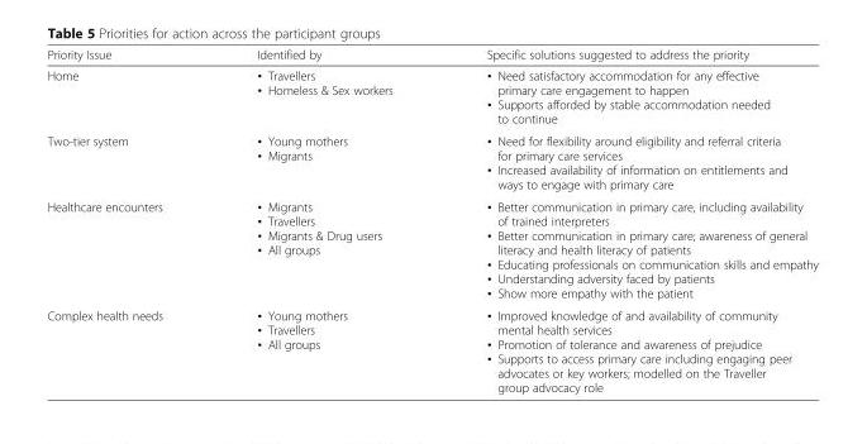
<table><thead><tr><td>Priority Issue</td><td>Identified by</td><td>Specific solutions suggested to address the priority</td></tr></thead><tbody><tr><td>Home</td><td>• Travellers • Homeless &amp; Sex workers</td><td>• Need satisfactory accommodation for any effective primary care engagement to happen • Supports afforded by stable accommodation needed to continue</td></tr><tr><td>Two-tier system</td><td>• Young mothers • Migrants</td><td>• Need for flexibility around eligibility and referral criteria for primary care services • Increased availability of information on entitlements and ways to engage with primary care</td></tr><tr><td>Healthcare encounters</td><td>• Migrants • Travellers • Migrants &amp; Drug users • All groups</td><td>• Better communication in primary care, including availability of trained interpreters • Better communication in primary care; awareness of general literacy and health literacy of patients • Educating professionals on communication skills and empathy • Understanding adversity faced by patients • Show more empathy with the patient</td></tr><tr><td>Complex health needs</td><td>• Young mothers • Travellers • All groups</td><td>• Improved knowledge of and availability of community mental health services • Promotion of tolerance and awareness of prejudice • Supports to access primary care including engaging peer advocates or key workers; modelled on the Traveller group advocacy role</td></tr></tbody></table>